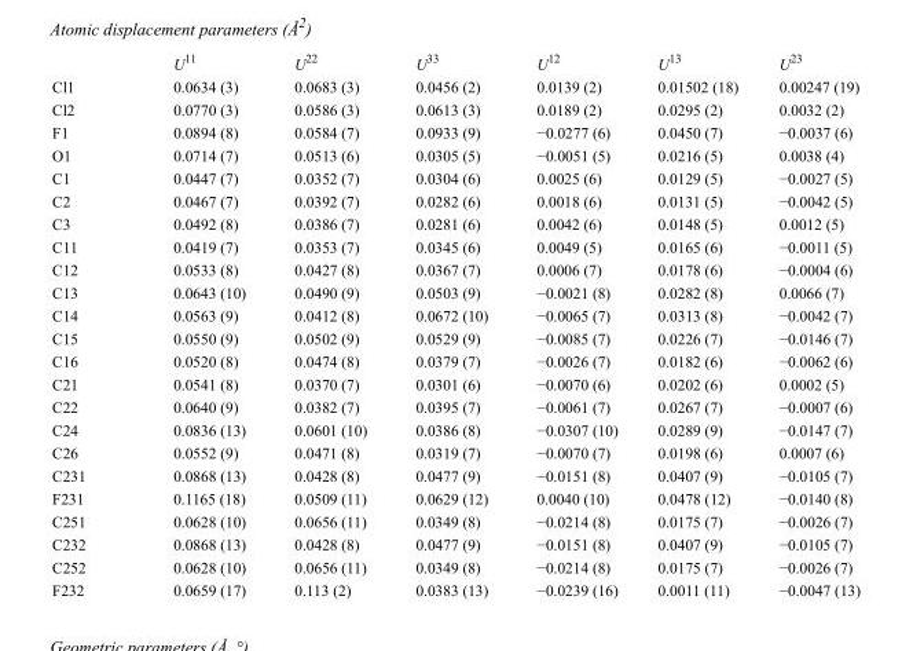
<table><thead><tr><td></td><td>U<sup>11</sup></td><td>U<sup>22</sup></td><td>U<sup>33</sup></td><td>U<sup>12</sup></td><td>U<sup>13</sup></td><td>U<sup>23</sup></td></tr></thead><tbody><tr><td>Cl1</td><td>0.0634 (3)</td><td>0.0683 (3)</td><td>0.0456 (2)</td><td>0.0139 (2)</td><td>0.01502 (18)</td><td>0.00247 (19)</td></tr><tr><td>Cl2</td><td>0.0770 (3)</td><td>0.0586 (3)</td><td>0.0613 (3)</td><td>0.0189 (2)</td><td>0.0295 (2)</td><td>0.0032 (2)</td></tr><tr><td>F1</td><td>0.0894 (8)</td><td>0.0584 (7)</td><td>0.0933 (9)</td><td>−0.0277 (6)</td><td>0.0450 (7)</td><td>−0.0037 (6)</td></tr><tr><td>O1</td><td>0.0714 (7)</td><td>0.0513 (6)</td><td>0.0305 (5)</td><td>−0.0051 (5)</td><td>0.0216 (5)</td><td>0.0038 (4)</td></tr><tr><td>C1</td><td>0.0447 (7)</td><td>0.0352 (7)</td><td>0.0304 (6)</td><td>0.0025 (6)</td><td>0.0129 (5)</td><td>−0.0027 (5)</td></tr><tr><td>C2</td><td>0.0467 (7)</td><td>0.0392 (7)</td><td>0.0282 (6)</td><td>0.0018 (6)</td><td>0.0131 (5)</td><td>−0.0042 (5)</td></tr><tr><td>C3</td><td>0.0492 (8)</td><td>0.0386 (7)</td><td>0.0281 (6)</td><td>0.0042 (6)</td><td>0.0148 (5)</td><td>0.0012 (5)</td></tr><tr><td>C11</td><td>0.0419 (7)</td><td>0.0353 (7)</td><td>0.0345 (6)</td><td>0.0049 (5)</td><td>0.0165 (6)</td><td>−0.0011 (5)</td></tr><tr><td>C12</td><td>0.0533 (8)</td><td>0.0427 (8)</td><td>0.0367 (7)</td><td>0.0006 (7)</td><td>0.0178 (6)</td><td>−0.0004 (6)</td></tr><tr><td>C13</td><td>0.0643 (10)</td><td>0.0490 (9)</td><td>0.0503 (9)</td><td>−0.0021 (8)</td><td>0.0282 (8)</td><td>0.0066 (7)</td></tr><tr><td>C14</td><td>0.0563 (9)</td><td>0.0412 (8)</td><td>0.0672 (10)</td><td>−0.0065 (7)</td><td>0.0313 (8)</td><td>−0.0042 (7)</td></tr><tr><td>C15</td><td>0.0550 (9)</td><td>0.0502 (9)</td><td>0.0529 (9)</td><td>−0.0085 (7)</td><td>0.0226 (7)</td><td>−0.0146 (7)</td></tr><tr><td>C16</td><td>0.0520 (8)</td><td>0.0474 (8)</td><td>0.0379 (7)</td><td>−0.0026 (7)</td><td>0.0182 (6)</td><td>−0.0062 (6)</td></tr><tr><td>C21</td><td>0.0541 (8)</td><td>0.0370 (7)</td><td>0.0301 (6)</td><td>−0.0070 (6)</td><td>0.0202 (6)</td><td>0.0002 (5)</td></tr><tr><td>C22</td><td>0.0640 (9)</td><td>0.0382 (7)</td><td>0.0395 (7)</td><td>−0.0061 (7)</td><td>0.0267 (7)</td><td>−0.0007 (6)</td></tr><tr><td>C24</td><td>0.0836 (13)</td><td>0.0601 (10)</td><td>0.0386 (8)</td><td>−0.0307 (10)</td><td>0.0289 (9)</td><td>−0.0147 (7)</td></tr><tr><td>C26</td><td>0.0552 (9)</td><td>0.0471 (8)</td><td>0.0319 (7)</td><td>−0.0070 (7)</td><td>0.0198 (6)</td><td>0.0007 (6)</td></tr><tr><td>C231</td><td>0.0868 (13)</td><td>0.0428 (8)</td><td>0.0477 (9)</td><td>−0.0151 (8)</td><td>0.0407 (9)</td><td>−0.0105 (7)</td></tr><tr><td>F231</td><td>0.1165 (18)</td><td>0.0509 (11)</td><td>0.0629 (12)</td><td>0.0040 (10)</td><td>0.0478 (12)</td><td>−0.0140 (8)</td></tr><tr><td>C251</td><td>0.0628 (10)</td><td>0.0656 (11)</td><td>0.0349 (8)</td><td>−0.0214 (8)</td><td>0.0175 (7)</td><td>−0.0026 (7)</td></tr><tr><td>C232</td><td>0.0868 (13)</td><td>0.0428 (8)</td><td>0.0477 (9)</td><td>−0.0151 (8)</td><td>0.0407 (9)</td><td>−0.0105 (7)</td></tr><tr><td>C252</td><td>0.0628 (10)</td><td>0.0656 (11)</td><td>0.0349 (8)</td><td>−0.0214 (8)</td><td>0.0175 (7)</td><td>−0.0026 (7)</td></tr><tr><td>F232</td><td>0.0659 (17)</td><td>0.113 (2)</td><td>0.0383 (13)</td><td>−0.0239 (16)</td><td>0.0011 (11)</td><td>−0.0047 (13)</td></tr></tbody></table>